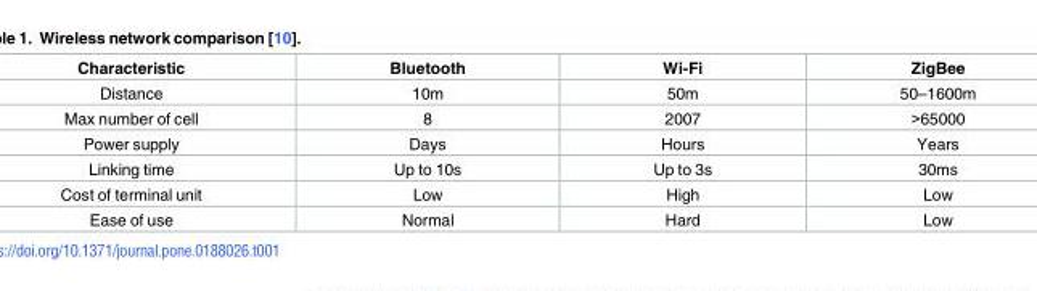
<table><thead><tr><td>Characteristic</td><td>Bluetooth</td><td>Wi-Fi</td><td>ZigBee</td></tr></thead><tbody><tr><td>Distance</td><td>10m</td><td>50m</td><td>50–1600m</td></tr><tr><td>Max number of cell</td><td>8</td><td>2007</td><td>&gt;65000</td></tr><tr><td>Power supply</td><td>Days</td><td>Hours</td><td>Years</td></tr><tr><td>Linking time</td><td>Up to 10s</td><td>Up to 3s</td><td>30ms</td></tr><tr><td>Cost of terminal unit</td><td>Low</td><td>High</td><td>Low</td></tr><tr><td>Ease of use</td><td>Normal</td><td>Hard</td><td>Low</td></tr></tbody></table>